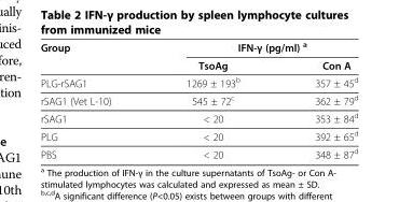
<table><thead><tr><td rowspan="2">Group</td><td colspan="2">IFN-γ (pg/ml) <sup>a</sup></td></tr><tr><td>TsoAg</td><td>Con A</td></tr></thead><tbody><tr><td>PLG-rSAG1</td><td>1269 ± 193<sup>b</sup></td><td>357 ± 45<sup>d</sup></td></tr><tr><td>rSAG1 (Vet L-10)</td><td>545 ± 72<sup>c</sup></td><td>362 ± 79<sup>d</sup></td></tr><tr><td>rSAG1</td><td>&lt; 20</td><td>353 ± 84<sup>d</sup></td></tr><tr><td>PLG</td><td>&lt; 20</td><td>392 ± 65<sup>d</sup></td></tr><tr><td>PBS</td><td>&lt; 20</td><td>348 ± 87<sup>d</sup></td></tr></tbody></table>